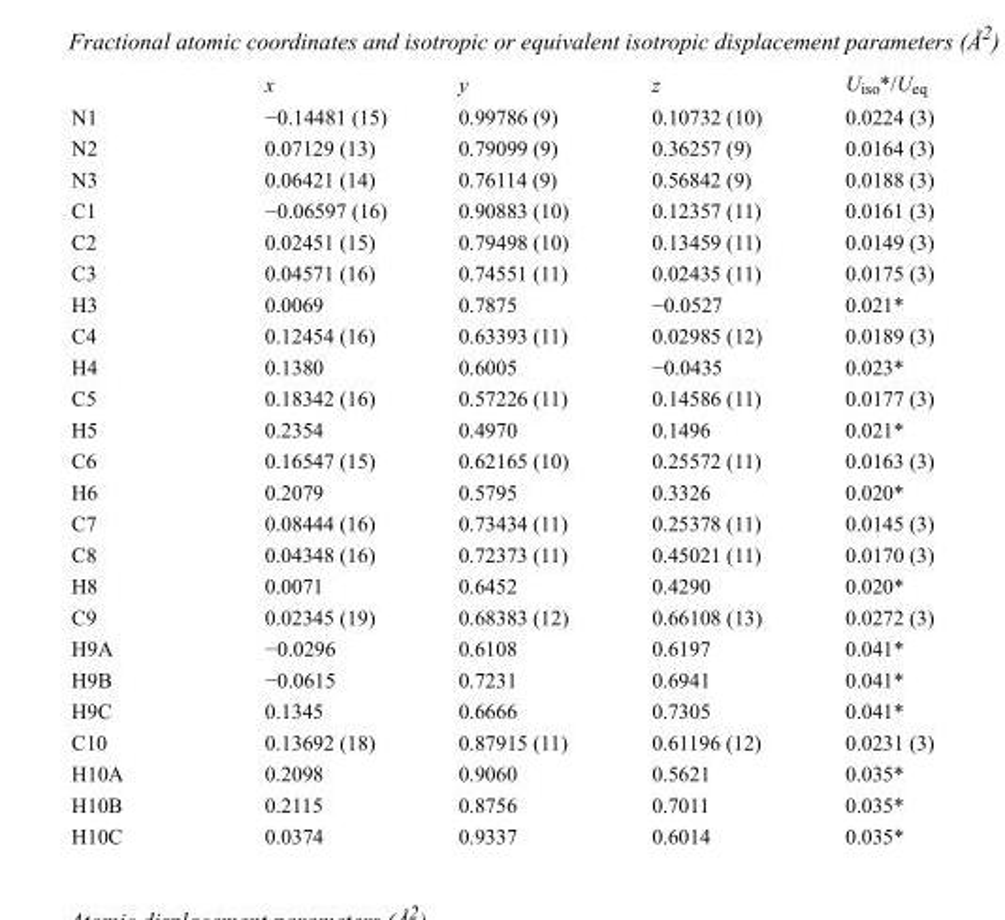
<table><thead><tr><td></td><td>x</td><td>y</td><td>z</td><td>U<sub>iso</sub>*/U<sub>eq</sub></td></tr></thead><tbody><tr><td>N1</td><td>−0.14481 (15)</td><td>0.99786 (9)</td><td>0.10732 (10)</td><td>0.0224 (3)</td></tr><tr><td>N2</td><td>0.07129 (13)</td><td>0.79099 (9)</td><td>0.36257 (9)</td><td>0.0164 (3)</td></tr><tr><td>N3</td><td>0.06421 (14)</td><td>0.76114 (9)</td><td>0.56842 (9)</td><td>0.0188 (3)</td></tr><tr><td>C1</td><td>−0.06597 (16)</td><td>0.90883 (10)</td><td>0.12357 (11)</td><td>0.0161 (3)</td></tr><tr><td>C2</td><td>0.02451 (15)</td><td>0.79498 (10)</td><td>0.13459 (11)</td><td>0.0149 (3)</td></tr><tr><td>C3</td><td>0.04571 (16)</td><td>0.74551 (11)</td><td>0.02435 (11)</td><td>0.0175 (3)</td></tr><tr><td>H3</td><td>0.0069</td><td>0.7875</td><td>−0.0527</td><td>0.021*</td></tr><tr><td>C4</td><td>0.12454 (16)</td><td>0.63393 (11)</td><td>0.02985 (12)</td><td>0.0189 (3)</td></tr><tr><td>H4</td><td>0.1380</td><td>0.6005</td><td>−0.0435</td><td>0.023*</td></tr><tr><td>C5</td><td>0.18342 (16)</td><td>0.57226 (11)</td><td>0.14586 (11)</td><td>0.0177 (3)</td></tr><tr><td>H5</td><td>0.2354</td><td>0.4970</td><td>0.1496</td><td>0.021*</td></tr><tr><td>C6</td><td>0.16547 (15)</td><td>0.62165 (10)</td><td>0.25572 (11)</td><td>0.0163 (3)</td></tr><tr><td>H6</td><td>0.2079</td><td>0.5795</td><td>0.3326</td><td>0.020*</td></tr><tr><td>C7</td><td>0.08444 (16)</td><td>0.73434 (11)</td><td>0.25378 (11)</td><td>0.0145 (3)</td></tr><tr><td>C8</td><td>0.04348 (16)</td><td>0.72373 (11)</td><td>0.45021 (11)</td><td>0.0170 (3)</td></tr><tr><td>H8</td><td>0.0071</td><td>0.6452</td><td>0.4290</td><td>0.020*</td></tr><tr><td>C9</td><td>0.02345 (19)</td><td>0.68383 (12)</td><td>0.66108 (13)</td><td>0.0272 (3)</td></tr><tr><td>H9A</td><td>−0.0296</td><td>0.6108</td><td>0.6197</td><td>0.041*</td></tr><tr><td>H9B</td><td>−0.0615</td><td>0.7231</td><td>0.6941</td><td>0.041*</td></tr><tr><td>H9C</td><td>0.1345</td><td>0.6666</td><td>0.7305</td><td>0.041*</td></tr><tr><td>C10</td><td>0.13692 (18)</td><td>0.87915 (11)</td><td>0.61196 (12)</td><td>0.0231 (3)</td></tr><tr><td>H10A</td><td>0.2098</td><td>0.9060</td><td>0.5621</td><td>0.035*</td></tr><tr><td>H10B</td><td>0.2115</td><td>0.8756</td><td>0.7011</td><td>0.035*</td></tr><tr><td>H10C</td><td>0.0374</td><td>0.9337</td><td>0.6014</td><td>0.035*</td></tr></tbody></table>